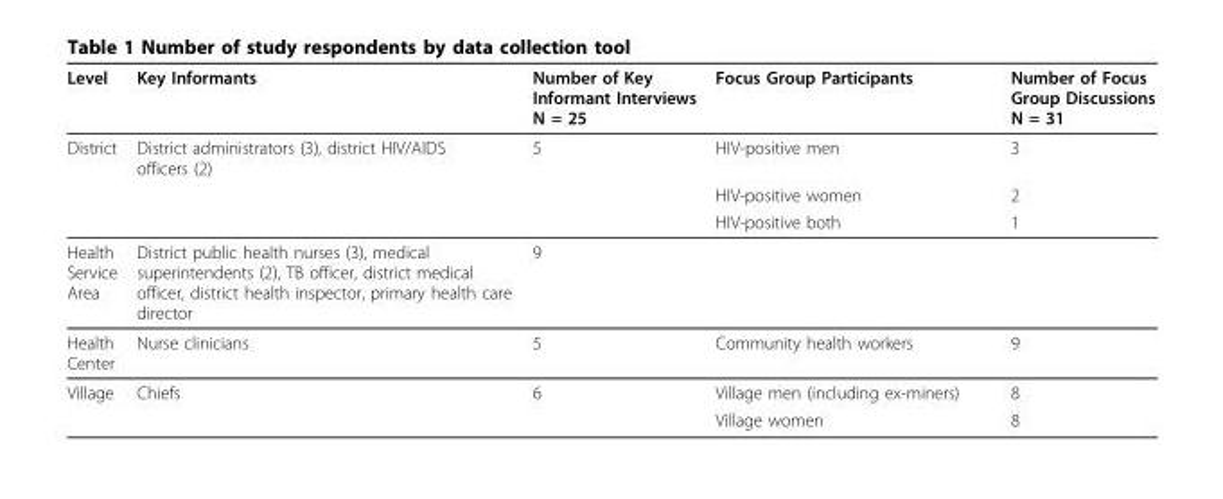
<table><thead><tr><td>Level</td><td>Key Informants</td><td>Number of Key Informant Interviews N = 25</td><td>Focus Group Participants</td><td>Number of Focus Group Discussions N = 31</td></tr></thead><tbody><tr><td rowspan="3">District</td><td>District administrators (3), district HIV/AIDS officers (2)</td><td>5</td><td>HIV-positive men</td><td>3</td></tr><tr><td></td><td></td><td>HIV-positive women</td><td>2</td></tr><tr><td></td><td></td><td>HIV-positive both</td><td>1</td></tr><tr><td>Health Service Area</td><td>District public health nurses (3), medical superintendents (2), TB officer, district medical officer, district health inspector, primary health care director</td><td>9</td><td></td><td></td></tr><tr><td>Health Center</td><td>Nurse clinicians</td><td>5</td><td>Community health workers</td><td>9</td></tr><tr><td rowspan="2">Village</td><td>Chiefs</td><td>6</td><td>Village men (including ex-miners)</td><td>8</td></tr><tr><td></td><td></td><td>Village women</td><td>8</td></tr></tbody></table>